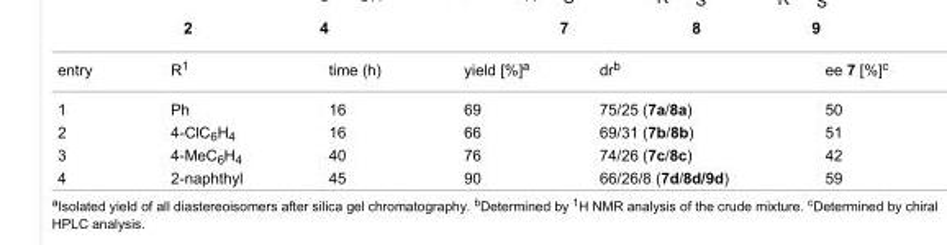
<table><tbody><tr><td>entry</td><td>R<sup>1</sup></td><td>time (h)</td><td>yield [%]<sup>a</sup></td><td>dr<sup>b</sup></td><td>ee 7 [%]<sup>c</sup></td></tr><tr><td>1</td><td>Ph</td><td>16</td><td>69</td><td>75/25 (7a/8a)</td><td>50</td></tr><tr><td>2</td><td>4-ClC<sub>6</sub>H<sub>4</sub></td><td>16</td><td>66</td><td>69/31 (7b/8b)</td><td>51</td></tr><tr><td>3</td><td>4-MeC<sub>6</sub>H<sub>4</sub></td><td>40</td><td>76</td><td>74/26 (7c/8c)</td><td>42</td></tr><tr><td>4</td><td>2-naphthyl</td><td>45</td><td>90</td><td>66/26/8 (7d/8d/9d)</td><td>59</td></tr></tbody></table>